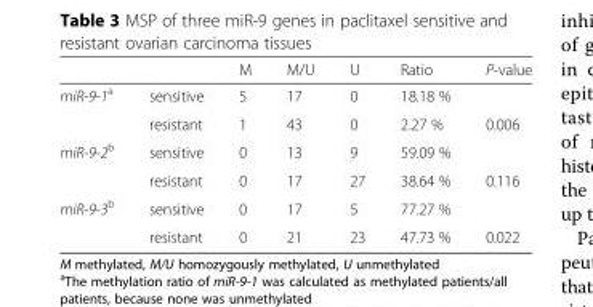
<table><thead><tr><td></td><td></td><td>M</td><td>M/U</td><td>U</td><td>Ratio</td><td>P-value</td></tr></thead><tbody><tr><td rowspan="2">miR-9-1<sup>a</sup></td><td>sensitive</td><td>5</td><td>17</td><td>0</td><td>18.18 %</td><td></td></tr><tr><td>resistant</td><td>1</td><td>43</td><td>0</td><td>2.27 %</td><td>0.006</td></tr><tr><td rowspan="2">miR-9-2<sup>b</sup></td><td>sensitive</td><td>0</td><td>13</td><td>9</td><td>59.09 %</td><td></td></tr><tr><td>resistant</td><td>0</td><td>17</td><td>27</td><td>38.64 %</td><td>0.116</td></tr><tr><td rowspan="2">miR-9-3<sup>b</sup></td><td>sensitive</td><td>0</td><td>17</td><td>5</td><td>77.27 %</td><td></td></tr><tr><td>resistant</td><td>0</td><td>21</td><td>23</td><td>47.73 %</td><td>0.022</td></tr></tbody></table>